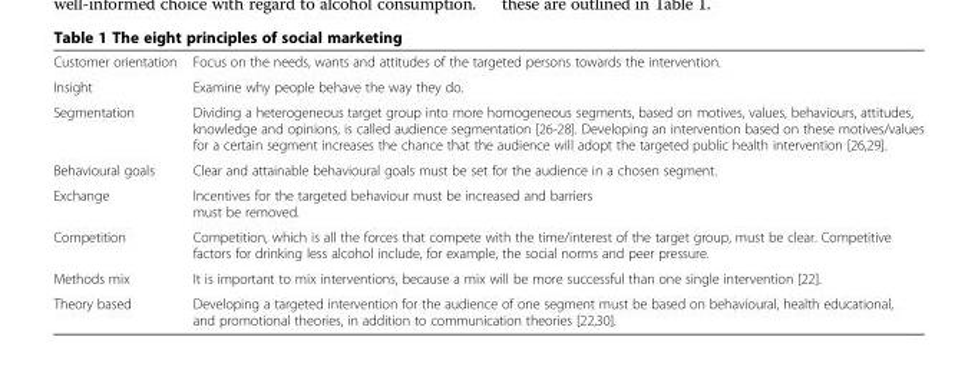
<table><tbody><tr><td>Customer orientation</td><td>Focus on the needs, wants and attitudes of the targeted persons towards the intervention.</td></tr><tr><td>Insight</td><td>Examine why people behave the way they do.</td></tr><tr><td>Segmentation</td><td>Dividing a heterogeneous target group into more homogeneous segments, based on motives, values, behaviours, attitudes, knowledge and opinions, is called audience segmentation [26-28]. Developing an intervention based on these motives/values for a certain segment increases the chance that the audience will adopt the targeted public health intervention [26,29].</td></tr><tr><td>Behavioural goals</td><td>Clear and attainable behavioural goals must be set for the audience in a chosen segment.</td></tr><tr><td>Exchange</td><td>Incentives for the targeted behaviour must be increased and barriers must be removed.</td></tr><tr><td>Competition</td><td>Competition, which is all the forces that compete with the time/interest of the target group, must be clear. Competitive factors for drinking less alcohol include, for example, the social norms and peer pressure.</td></tr><tr><td>Methods mix</td><td>It is important to mix interventions, because a mix will be more successful than one single intervention [22].</td></tr><tr><td>Theory based</td><td>Developing a targeted intervention for the audience of one segment must be based on behavioural, health educational, and promotional theories, in addition to communication theories [22,30].</td></tr></tbody></table>